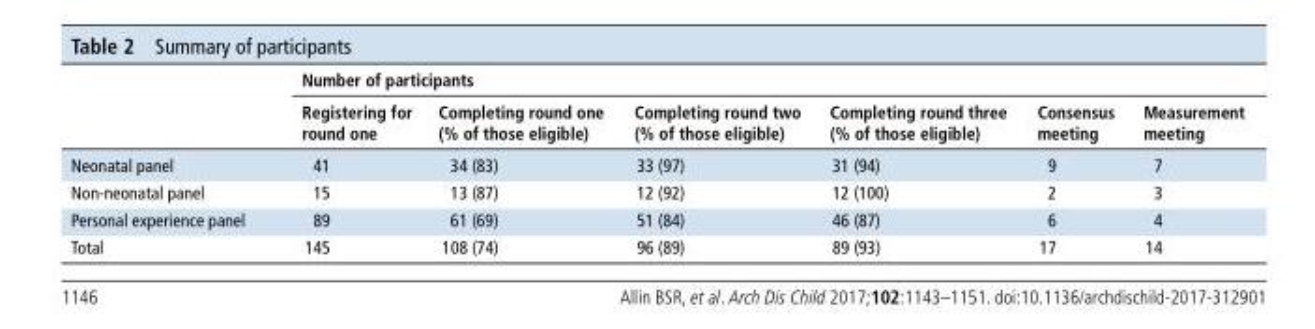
<table><thead><tr><td rowspan="2"></td><td colspan="6">number of participants</td></tr><tr><td>registering for round one</td><td>completing round one (% of those eligible)</td><td>completing round two (% of those eligible)</td><td>completing round three (% of those eligible)</td><td>consensus meeting</td><td>Measurement meeting</td></tr></thead><tbody><tr><td>Neonatal panel</td><td>41</td><td>34 (83)</td><td>33 (97)</td><td>31 (94)</td><td>9</td><td>7</td></tr><tr><td>Non-neonatal panel</td><td>15</td><td>13 (87)</td><td>12 (92)</td><td>12 (100)</td><td>2</td><td>3</td></tr><tr><td>Personal experience panel</td><td>89</td><td>61 (69)</td><td>51 (84)</td><td>46 (87)</td><td>6</td><td>4</td></tr><tr><td>Total</td><td>145</td><td>108 (74)</td><td>96 (89)</td><td>89 (93)</td><td>17</td><td>14</td></tr></tbody></table>